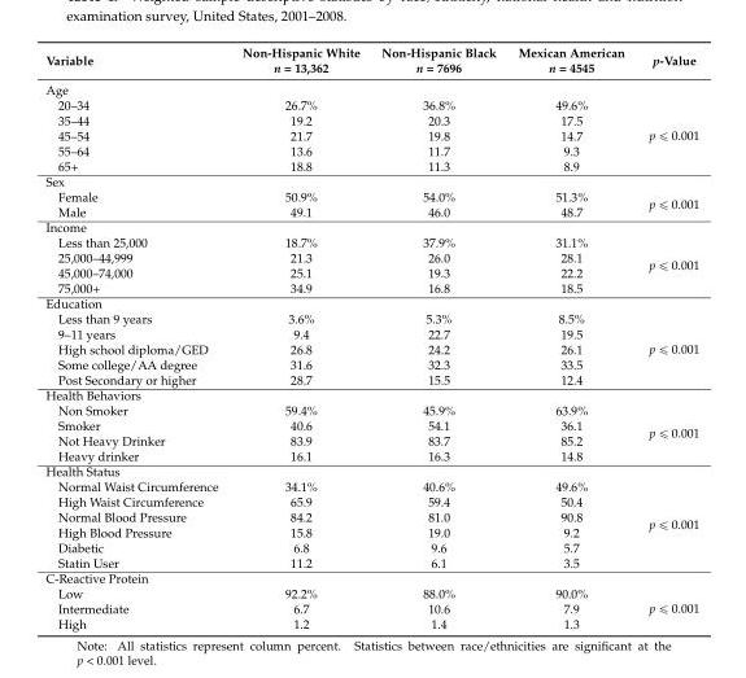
<table><thead><tr><td>Variable</td><td>Non-Hispanic White n = 13,362</td><td>Non-Hispanic Black n = 7696</td><td>Mexican American n = 4545</td><td>p-Value</td></tr></thead><tbody><tr><td colspan="5">Age</td></tr><tr><td>20–34</td><td>26.7%</td><td>36.8%</td><td>49.6%</td><td rowspan="5">p ď 0.001</td></tr><tr><td>35–44</td><td>19.2</td><td>20.3</td><td>17.5</td></tr><tr><td>45–54</td><td>21.7</td><td>19.8</td><td>14.7</td></tr><tr><td>55–64</td><td>13.6</td><td>11.7</td><td>9.3</td></tr><tr><td>65+</td><td>18.8</td><td>11.3</td><td>8.9</td></tr><tr><td colspan="5">Sex</td></tr><tr><td>Female</td><td>50.9%</td><td>54.0%</td><td>51.3%</td><td rowspan="2">p ď 0.001</td></tr><tr><td>Male</td><td>49.1</td><td>46.0</td><td>48.7</td></tr><tr><td colspan="5">Income</td></tr><tr><td>Less than 25,000</td><td>18.7%</td><td>37.9%</td><td>31.1%</td><td rowspan="4">p ď 0.001</td></tr><tr><td>25,000–44,999</td><td>21.3</td><td>26.0</td><td>28.1</td></tr><tr><td>45,000–74,000</td><td>25.1</td><td>19.3</td><td>22.2</td></tr><tr><td>75,000+</td><td>34.9</td><td>16.8</td><td>18.5</td></tr><tr><td colspan="5">Education</td></tr><tr><td>Less than 9 years</td><td>3.6%</td><td>5.3%</td><td>8.5%</td><td rowspan="5">p ď 0.001</td></tr><tr><td>9–11 years</td><td>9.4</td><td>22.7</td><td>19.5</td></tr><tr><td>High school diploma/GED</td><td>26.8</td><td>24.2</td><td>26.1</td></tr><tr><td>Some college/AA degree</td><td>31.6</td><td>32.3</td><td>33.5</td></tr><tr><td>Post Secondary or higher</td><td>28.7</td><td>15.5</td><td>12.4</td></tr><tr><td colspan="5">Health Behaviors</td></tr><tr><td>Non Smoker</td><td>59.4%</td><td>45.9%</td><td>63.9%</td><td rowspan="4">p ď 0.001</td></tr><tr><td>Smoker</td><td>40.6</td><td>54.1</td><td>36.1</td></tr><tr><td>Not Heavy Drinker</td><td>83.9</td><td>83.7</td><td>85.2</td></tr><tr><td>Heavy drinker</td><td>16.1</td><td>16.3</td><td>14.8</td></tr><tr><td colspan="5">Health Status</td></tr><tr><td>Normal Waist Circumference</td><td>34.1%</td><td>40.6%</td><td>49.6%</td><td rowspan="6">p ď 0.001</td></tr><tr><td>High Waist Circumference</td><td>65.9</td><td>59.4</td><td>50.4</td></tr><tr><td>Normal Blood Pressure</td><td>84.2</td><td>81.0</td><td>90.8</td></tr><tr><td>High Blood Pressure</td><td>15.8</td><td>19.0</td><td>9.2</td></tr><tr><td>Diabetic</td><td>6.8</td><td>9.6</td><td>5.7</td></tr><tr><td>Statin User</td><td>11.2</td><td>6.1</td><td>3.5</td></tr><tr><td colspan="5">C-Reactive Protein</td></tr><tr><td>Low</td><td>92.2%</td><td>88.0%</td><td>90.0%</td><td rowspan="3">p ď 0.001</td></tr><tr><td>Intermediate</td><td>6.7</td><td>10.6</td><td>7.9</td></tr><tr><td>High</td><td>1.2</td><td>1.4</td><td>1.3</td></tr></tbody></table>